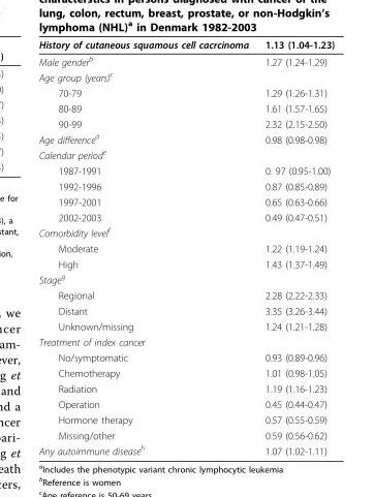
<table><thead><tr><td>History of cutaneous squamous cell cacrcinoma</td><td>1.13 (1.04-1.23)</td></tr></thead><tbody><tr><td>Male gender<sup>b</sup></td><td>1.27 (1.24-1.29)</td></tr><tr><td colspan="2">Age group (years)<sup>c</sup></td></tr><tr><td>70-79</td><td>1.29 (1.26-1.31)</td></tr><tr><td>80-89</td><td>1.61 (1.57-1.65)</td></tr><tr><td>90-99</td><td>2.32 (2.15-2.50)</td></tr><tr><td>Age difference<sup>d</sup></td><td>0.98 (0.98-0.98)</td></tr><tr><td colspan="2">Calendar period<sup>e</sup></td></tr><tr><td>1987-1991</td><td>0. 97 (0.95-1.00)</td></tr><tr><td>1992-1996</td><td>0.87 (0.85-0.89)</td></tr><tr><td>1997-2001</td><td>0.65 (0.63-0.66)</td></tr><tr><td>2002-2003</td><td>0.49 (0.47-0.51)</td></tr><tr><td colspan="2">Comorbidity level<sup>f</sup></td></tr><tr><td>Moderate</td><td>1.22 (1.19-1.24)</td></tr><tr><td>High</td><td>1.43 (1.37-1.49)</td></tr><tr><td colspan="2">Stage<sup>g</sup></td></tr><tr><td>Regional</td><td>2.28 (2.22-2.33)</td></tr><tr><td>Distant</td><td>3.35 (3.26-3.44)</td></tr><tr><td>Unknown/missing</td><td>1.24 (1.21-1.28)</td></tr><tr><td colspan="2">Treatment of index cancer</td></tr><tr><td>No/symptomatic</td><td>0.93 (0.89-0.96)</td></tr><tr><td>Chemotherapy</td><td>1.01 (0.98-1.05)</td></tr><tr><td>Radiation</td><td>1.19 (1.16-1.23)</td></tr><tr><td>Operation</td><td>0.45 (0.44-0.47)</td></tr><tr><td>Hormone therapy</td><td>0.57 (0.55-0.59)</td></tr><tr><td>Missing/other</td><td>0.59 (0.56-0.62)</td></tr><tr><td>Any autoimmune disease<sup>h</sup></td><td>1.07 (1.02-1.11)</td></tr></tbody></table>